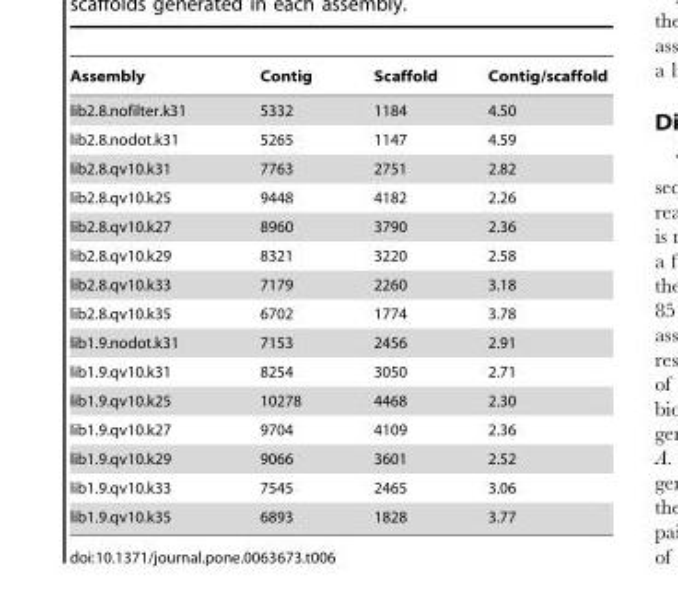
<table><thead><tr><td>Assembly</td><td>Contig</td><td>Scaffold</td><td>Contig/scaffold</td></tr></thead><tbody><tr><td>lib2.8.nofilter.k31</td><td>5332</td><td>1184</td><td>4.50</td></tr><tr><td>lib2.8.nodot.k31</td><td>5265</td><td>1147</td><td>4.59</td></tr><tr><td>lib2.8.qv10.k31</td><td>7763</td><td>2751</td><td>2.82</td></tr><tr><td>lib2.8.qv10.k25</td><td>9448</td><td>4182</td><td>2.26</td></tr><tr><td>lib2.8.qv10.k27</td><td>8960</td><td>3790</td><td>2.36</td></tr><tr><td>lib2.8.qv10.k29</td><td>8321</td><td>3220</td><td>2.58</td></tr><tr><td>lib2.8.qv10.k33</td><td>7179</td><td>2260</td><td>3.18</td></tr><tr><td>lib2.8.qv10.k35</td><td>6702</td><td>1774</td><td>3.78</td></tr><tr><td>lib1.9.nodot.k31</td><td>7153</td><td>2456</td><td>2.91</td></tr><tr><td>lib1.9.qv10.k31</td><td>8254</td><td>3050</td><td>2.71</td></tr><tr><td>lib1.9.qv10.k25</td><td>10278</td><td>4468</td><td>2.30</td></tr><tr><td>lib1.9.qv10.k27</td><td>9704</td><td>4109</td><td>2.36</td></tr><tr><td>lib1.9.qv10.k29</td><td>9066</td><td>3601</td><td>2.52</td></tr><tr><td>lib1.9.qv10.k33</td><td>7545</td><td>2465</td><td>3.06</td></tr><tr><td>lib1.9.qv10.k35</td><td>6893</td><td>1828</td><td>3.77</td></tr></tbody></table>